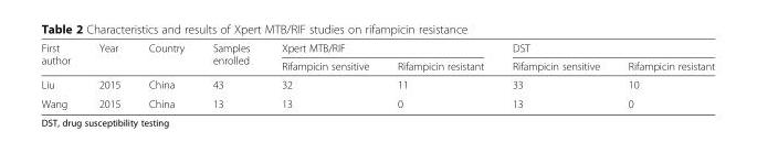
<table><thead><tr><td rowspan="2">First author</td><td rowspan="2">Year</td><td rowspan="2">Country</td><td rowspan="2">Samples enrolled</td><td colspan="2">Xpert MTB/RIF</td><td colspan="2">DST</td></tr><tr><td>Rifampicin sensitive</td><td>Rifampicin resistant</td><td>Rifampicin sensitive</td><td>Rifampicin resistant</td></tr></thead><tbody><tr><td>Liu</td><td>2015</td><td>China</td><td>43</td><td>32</td><td>11</td><td>33</td><td>10</td></tr><tr><td>Wang</td><td>2015</td><td>China</td><td>13</td><td>13</td><td>0</td><td>13</td><td>0</td></tr></tbody></table>